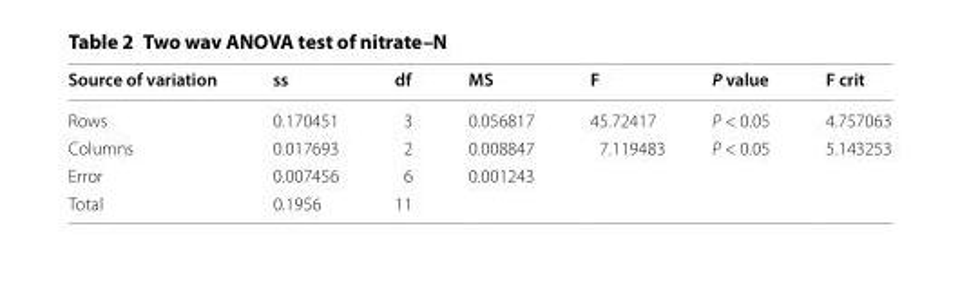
<table><thead><tr><td>Source of variation</td><td>ss</td><td>df</td><td>MS</td><td>F</td><td>P value</td><td>F crit</td></tr></thead><tbody><tr><td>Rows</td><td>0.170451</td><td>3</td><td>0.056817</td><td>45.72417</td><td>P &lt; 0.05</td><td>4.757063</td></tr><tr><td>Columns</td><td>0.017693</td><td>2</td><td>0.008847</td><td>7.119483</td><td>P &lt; 0.05</td><td>5.143253</td></tr><tr><td>Error</td><td>0.007456</td><td>6</td><td>0.001243</td><td></td><td></td><td></td></tr><tr><td>Total</td><td>0.1956</td><td>11</td><td></td><td></td><td></td><td></td></tr></tbody></table>